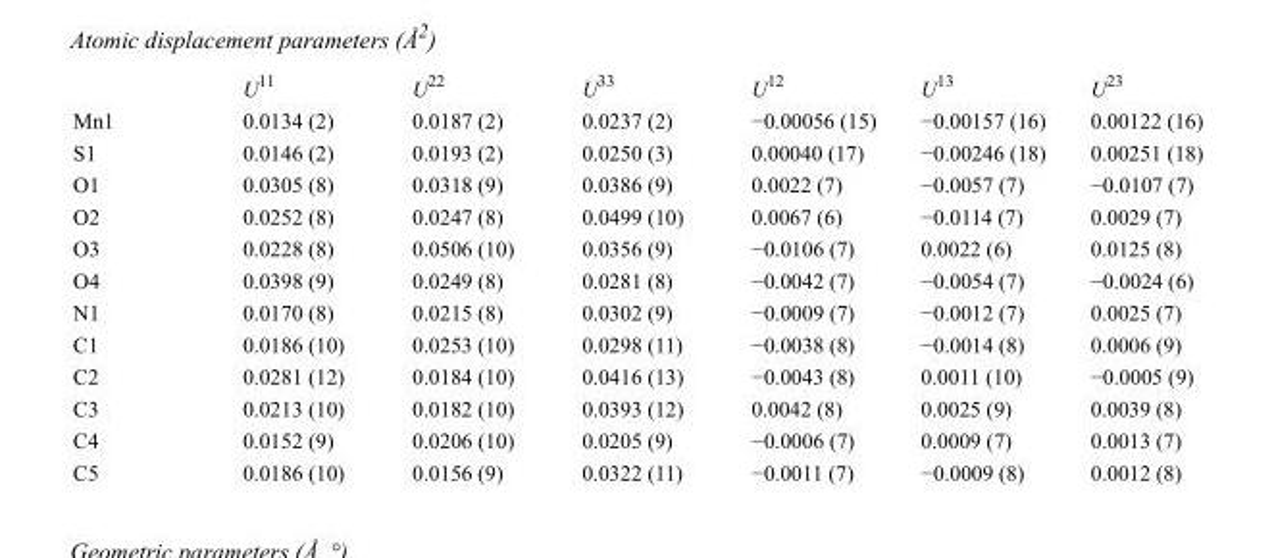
<table><thead><tr><td></td><td>U<sup>11</sup></td><td>U<sup>22</sup></td><td>U<sup>33</sup></td><td>U<sup>12</sup></td><td>U<sup>13</sup></td><td>U<sup>23</sup></td></tr></thead><tbody><tr><td>Mn1</td><td>0.0134 (2)</td><td>0.0187 (2)</td><td>0.0237 (2)</td><td>−0.00056 (15)</td><td>−0.00157 (16)</td><td>0.00122 (16)</td></tr><tr><td>S1</td><td>0.0146 (2)</td><td>0.0193 (2)</td><td>0.0250 (3)</td><td>0.00040 (17)</td><td>−0.00246 (18)</td><td>0.00251 (18)</td></tr><tr><td>O1</td><td>0.0305 (8)</td><td>0.0318 (9)</td><td>0.0386 (9)</td><td>0.0022 (7)</td><td>−0.0057 (7)</td><td>−0.0107 (7)</td></tr><tr><td>O2</td><td>0.0252 (8)</td><td>0.0247 (8)</td><td>0.0499 (10)</td><td>0.0067 (6)</td><td>−0.0114 (7)</td><td>0.0029 (7)</td></tr><tr><td>O3</td><td>0.0228 (8)</td><td>0.0506 (10)</td><td>0.0356 (9)</td><td>−0.0106 (7)</td><td>0.0022 (6)</td><td>0.0125 (8)</td></tr><tr><td>O4</td><td>0.0398 (9)</td><td>0.0249 (8)</td><td>0.0281 (8)</td><td>−0.0042 (7)</td><td>−0.0054 (7)</td><td>−0.0024 (6)</td></tr><tr><td>N1</td><td>0.0170 (8)</td><td>0.0215 (8)</td><td>0.0302 (9)</td><td>−0.0009 (7)</td><td>−0.0012 (7)</td><td>0.0025 (7)</td></tr><tr><td>C1</td><td>0.0186 (10)</td><td>0.0253 (10)</td><td>0.0298 (11)</td><td>−0.0038 (8)</td><td>−0.0014 (8)</td><td>0.0006 (9)</td></tr><tr><td>C2</td><td>0.0281 (12)</td><td>0.0184 (10)</td><td>0.0416 (13)</td><td>−0.0043 (8)</td><td>0.0011 (10)</td><td>−0.0005 (9)</td></tr><tr><td>C3</td><td>0.0213 (10)</td><td>0.0182 (10)</td><td>0.0393 (12)</td><td>0.0042 (8)</td><td>0.0025 (9)</td><td>0.0039 (8)</td></tr><tr><td>C4</td><td>0.0152 (9)</td><td>0.0206 (10)</td><td>0.0205 (9)</td><td>−0.0006 (7)</td><td>0.0009 (7)</td><td>0.0013 (7)</td></tr><tr><td>C5</td><td>0.0186 (10)</td><td>0.0156 (9)</td><td>0.0322 (11)</td><td>−0.0011 (7)</td><td>−0.0009 (8)</td><td>0.0012 (8)</td></tr></tbody></table>